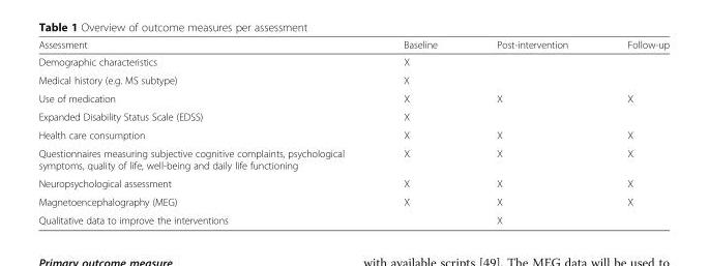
<table><thead><tr><td>Assessment</td><td>Baseline</td><td>Post-intervention</td><td>Follow-up</td></tr></thead><tbody><tr><td>Demographic characteristics</td><td>X</td><td></td><td></td></tr><tr><td>Medical history (e.g. MS subtype)</td><td>X</td><td></td><td></td></tr><tr><td>Use of medication</td><td>X</td><td>X</td><td>X</td></tr><tr><td>Expanded Disability Status Scale (EDSS)</td><td>X</td><td></td><td></td></tr><tr><td>Health care consumption</td><td>X</td><td>X</td><td>X</td></tr><tr><td>Questionnaires measuring subjective cognitive complaints, psychological symptoms, quality of life, well-being and daily life functioning</td><td>X</td><td>X</td><td>X</td></tr><tr><td>Neuropsychological assessment</td><td>X</td><td>X</td><td>X</td></tr><tr><td>Magnetoencephalography (MEG)</td><td>X</td><td>X</td><td>X</td></tr><tr><td>Qualitative data to improve the interventions</td><td></td><td>X</td><td></td></tr></tbody></table>